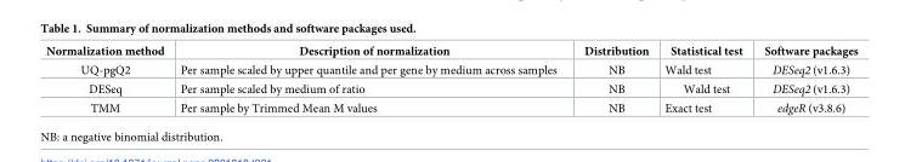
<table><thead><tr><td>Normalization method</td><td>Description of normalization</td><td>Distribution</td><td>Statistical test</td><td>Software packages</td></tr></thead><tbody><tr><td>UQ-pgQ2</td><td>Per sample scaled by upper quantile and per gene by medium across samples</td><td>NB</td><td>Wald test</td><td>DESeq2 (v1.6.3)</td></tr><tr><td>DESeq</td><td>Per sample scaled by medium of ratio</td><td>NB</td><td>Wald test</td><td>DESeq2 (v1.6.3)</td></tr><tr><td>TMM</td><td>Per sample by Trimmed Mean M values</td><td>NB</td><td>Exact test</td><td>edgeR (v3.8.6)</td></tr></tbody></table>